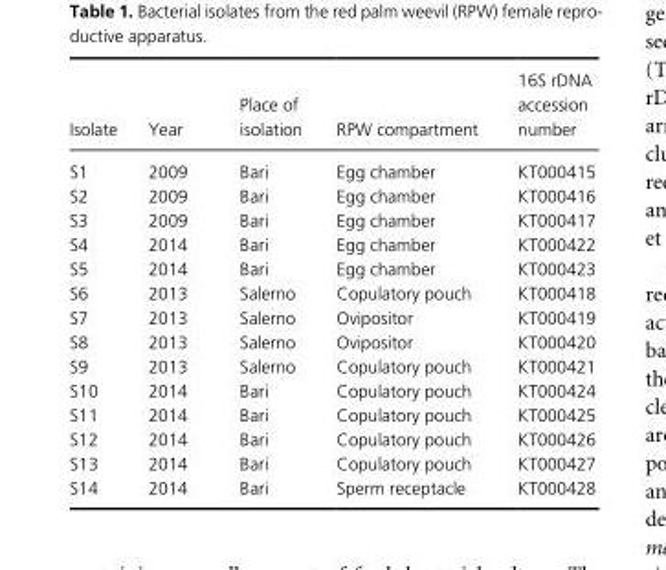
<table><thead><tr><td>Isolate</td><td>Year</td><td>Place of isolation</td><td>RPW compartment</td><td>16S rDNA accession number</td></tr></thead><tbody><tr><td>S1</td><td>2009</td><td>Bari</td><td>Egg chamber</td><td>KT000415</td></tr><tr><td>S2</td><td>2009</td><td>Bari</td><td>Egg chamber</td><td>KT000416</td></tr><tr><td>S3</td><td>2009</td><td>Bari</td><td>Egg chamber</td><td>KT000417</td></tr><tr><td>S4</td><td>2014</td><td>Bari</td><td>Egg chamber</td><td>KT000422</td></tr><tr><td>S5</td><td>2014</td><td>Bari</td><td>Egg chamber</td><td>KT000423</td></tr><tr><td>S6</td><td>2013</td><td>Salerno</td><td>Copulatory pouch</td><td>KT000418</td></tr><tr><td>S7</td><td>2013</td><td>Salerno</td><td>Ovipositor</td><td>KT000419</td></tr><tr><td>S8</td><td>2013</td><td>Salerno</td><td>Ovipositor</td><td>KT000420</td></tr><tr><td>S9</td><td>2013</td><td>Salerno</td><td>Copulatory pouch</td><td>KT000421</td></tr><tr><td>S10</td><td>2014</td><td>Bari</td><td>Copulatory pouch</td><td>KT000424</td></tr><tr><td>S11</td><td>2014</td><td>Bari</td><td>Copulatory pouch</td><td>KT000425</td></tr><tr><td>S12</td><td>2014</td><td>Bari</td><td>Copulatory pouch</td><td>KT000426</td></tr><tr><td>S13</td><td>2014</td><td>Bari</td><td>Copulatory pouch</td><td>KT000427</td></tr><tr><td>S14</td><td>2014</td><td>Bari</td><td>Sperm receptacle</td><td>KT000428</td></tr></tbody></table>